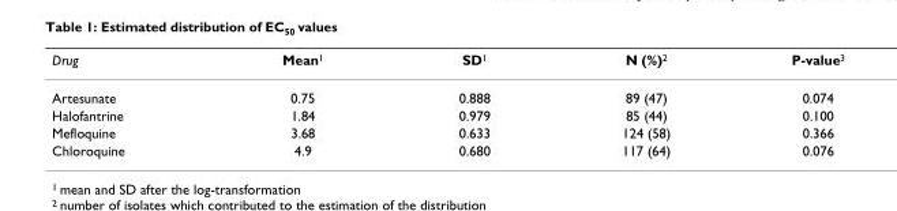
<table><thead><tr><td>Drug</td><td>Mean<sup>1</sup></td><td>SD<sup>1</sup></td><td>N (%)<sup>2</sup></td><td>P-value<sup>3</sup></td></tr></thead><tbody><tr><td>Artesunate</td><td>0.75</td><td>0.888</td><td>89 (47)</td><td>0.074</td></tr><tr><td>Halofantrine</td><td>1.84</td><td>0.979</td><td>85 (44)</td><td>0.100</td></tr><tr><td>Mefloquine</td><td>3.68</td><td>0.633</td><td>124 (58)</td><td>0.366</td></tr><tr><td>Chloroquine</td><td>4.9</td><td>0.680</td><td>117 (64)</td><td>0.076</td></tr></tbody></table>